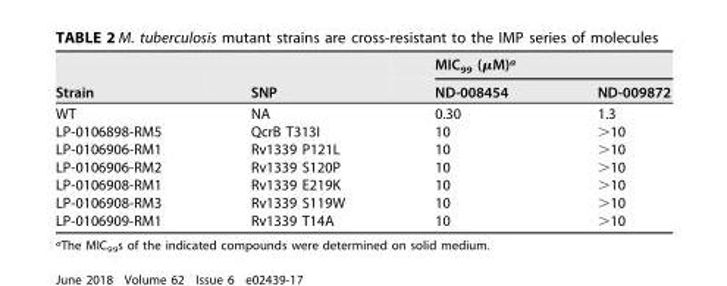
<table><thead><tr><td rowspan="2">Strain</td><td rowspan="2">SNP</td><td colspan="2">MIC<sub>99</sub> (μM)<sup>a</sup></td></tr><tr><td>ND-008454</td><td>ND-009872</td></tr></thead><tbody><tr><td>WT</td><td>NA</td><td>0.30</td><td>1.3</td></tr><tr><td>LP-0106898-RM5</td><td>QcrB T313I</td><td>10</td><td>&gt;10</td></tr><tr><td>LP-0106906-RM1</td><td>Rv1339 P121L</td><td>10</td><td>&gt;10</td></tr><tr><td>LP-0106906-RM2</td><td>Rv1339 S120P</td><td>10</td><td>&gt;10</td></tr><tr><td>LP-0106908-RM1</td><td>Rv1339 E219K</td><td>10</td><td>&gt;10</td></tr><tr><td>LP-0106908-RM3</td><td>Rv1339 S119W</td><td>10</td><td>&gt;10</td></tr><tr><td>LP-0106909-RM1</td><td>Rv1339 T14A</td><td>10</td><td>&gt;10</td></tr></tbody></table>